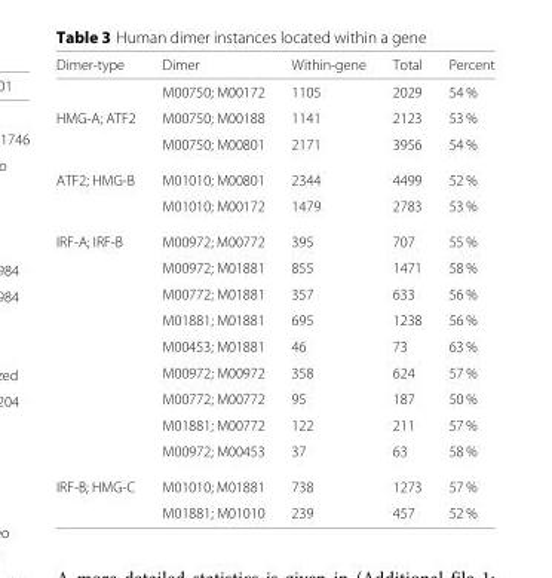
<table><thead><tr><td>Dimer-type</td><td>Dimer</td><td>Within-gene</td><td>Total</td><td>Percent</td></tr></thead><tbody><tr><td></td><td>M00750; M00172</td><td>1105</td><td>2029</td><td>54 %</td></tr><tr><td rowspan="2">HMG-A; ATF2</td><td>M00750; M00188</td><td>1141</td><td>2123</td><td>53 %</td></tr><tr><td>M00750; M00801</td><td>2171</td><td>3956</td><td>54 %</td></tr><tr><td rowspan="2">ATF2; HMG-B</td><td>M01010; M00801</td><td>2344</td><td>4499</td><td>52 %</td></tr><tr><td>M01010; M00172</td><td>1479</td><td>2783</td><td>53 %</td></tr><tr><td rowspan="9">IRF-A; IRF-B</td><td>M00972; M00772</td><td>395</td><td>707</td><td>55 %</td></tr><tr><td>M00972; M01881</td><td>855</td><td>1471</td><td>58 %</td></tr><tr><td>M00772; M01881</td><td>357</td><td>633</td><td>56 %</td></tr><tr><td>M01881; M01881</td><td>695</td><td>1238</td><td>56 %</td></tr><tr><td>M00453; M01881</td><td>46</td><td>73</td><td>63 %</td></tr><tr><td>M00972; M00972</td><td>358</td><td>624</td><td>57 %</td></tr><tr><td>M00772; M00772</td><td>95</td><td>187</td><td>50 %</td></tr><tr><td>M01881; M00772</td><td>122</td><td>211</td><td>57 %</td></tr><tr><td>M00972; M00453</td><td>37</td><td>63</td><td>58 %</td></tr><tr><td rowspan="2">IRF-B; HMG-C</td><td>M01010; M01881</td><td>738</td><td>1273</td><td>57 %</td></tr><tr><td>M01881; M01010</td><td>239</td><td>457</td><td>52 %</td></tr></tbody></table>